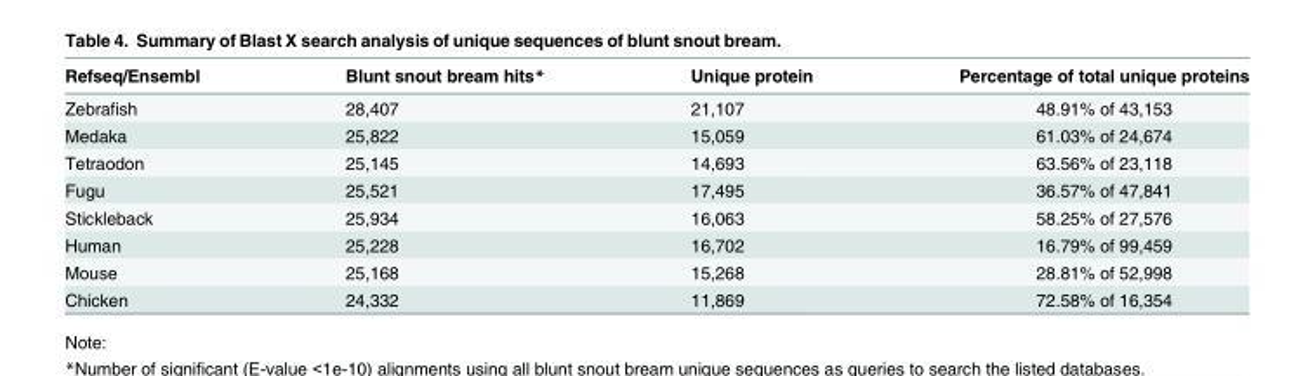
<table><thead><tr><td>Refseq/Ensembl</td><td>Blunt snout bream hits*</td><td>Unique protein</td><td>Percentage of total unique proteins</td></tr></thead><tbody><tr><td>Zebrafish</td><td>28,407</td><td>21,107</td><td>48.91% of 43,153</td></tr><tr><td>Medaka</td><td>25,822</td><td>15,059</td><td>61.03% of 24,674</td></tr><tr><td>Tetraodon</td><td>25,145</td><td>14,693</td><td>63.56% of 23,118</td></tr><tr><td>Fugu</td><td>25,521</td><td>17,495</td><td>36.57% of 47,841</td></tr><tr><td>Stickleback</td><td>25,934</td><td>16,063</td><td>58.25% of 27,576</td></tr><tr><td>Human</td><td>25,228</td><td>16,702</td><td>16.79% of 99,459</td></tr><tr><td>Mouse</td><td>25,168</td><td>15,268</td><td>28.81% of 52,998</td></tr><tr><td>Chicken</td><td>24,332</td><td>11,869</td><td>72.58% of 16,354</td></tr></tbody></table>